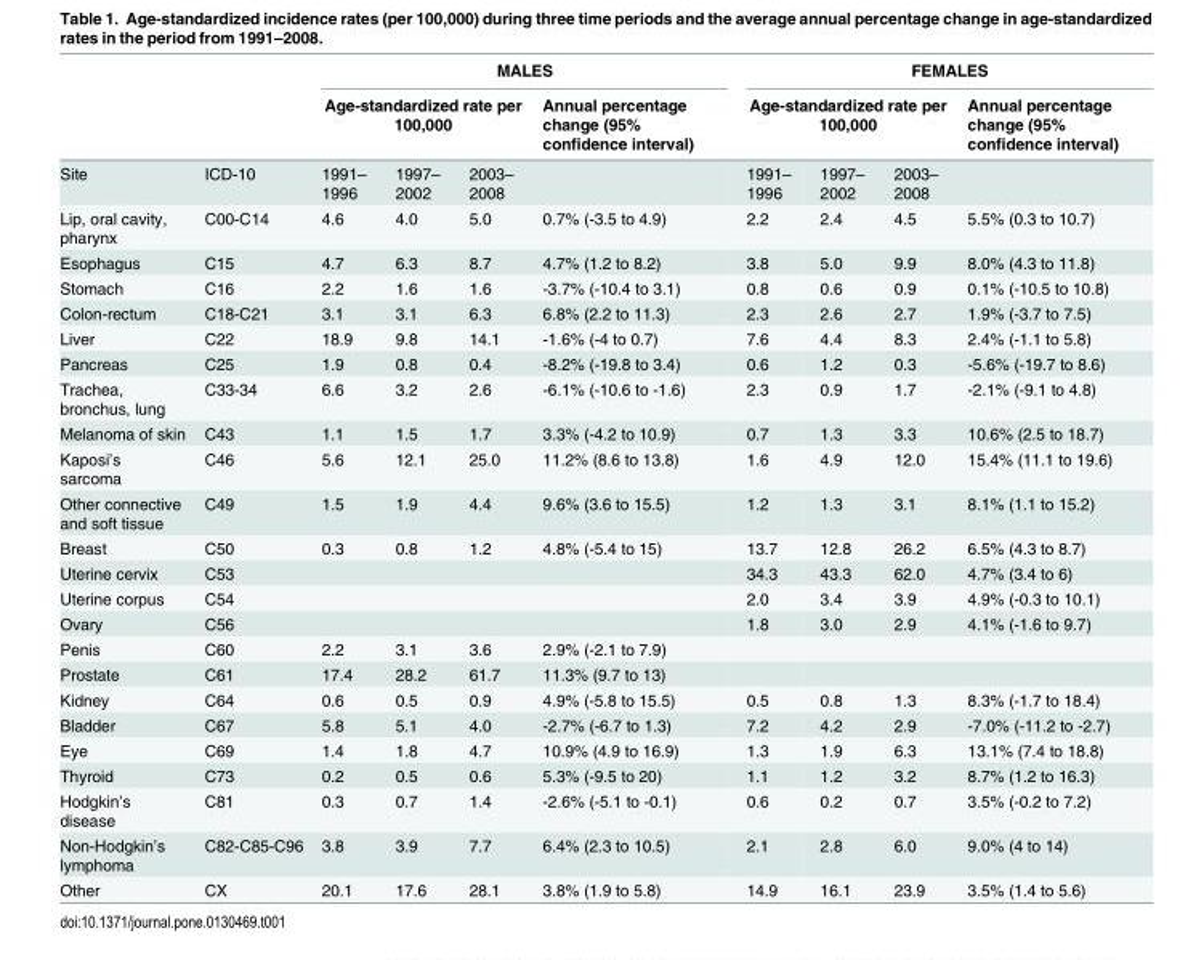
<table><thead><tr><td rowspan="3">Site</td><td rowspan="3">ICD-10</td><td colspan="4">MALES</td><td colspan="4">FEMALES</td></tr><tr><td colspan="3">Age-standardized rate per 100,000</td><td rowspan="2">Annual percentage change (95% confidence interval)</td><td colspan="3">Age-standardized rate per 100,000</td><td rowspan="2">Annual percentage change (95% confidence interval)</td></tr><tr><td>1991– 1996</td><td>1997– 2002</td><td>2003– 2008</td><td>1991– 1996</td><td>1997– 2002</td><td>2003– 2008</td></tr></thead><tbody><tr><td>Lip, oral cavity, pharynx</td><td>C00-C14</td><td>4.6</td><td>4.0</td><td>5.0</td><td>0.7% (-3.5 to 4.9)</td><td>2.2</td><td>2.4</td><td>4.5</td><td>5.5% (0.3 to 10.7)</td></tr><tr><td>Esophagus</td><td>C15</td><td>4.7</td><td>6.3</td><td>8.7</td><td>4.7% (1.2 to 8.2)</td><td>3.8</td><td>5.0</td><td>9.9</td><td>8.0% (4.3 to 11.8)</td></tr><tr><td>Stomach</td><td>C16</td><td>2.2</td><td>1.6</td><td>1.6</td><td>-3.7% (-10.4 to 3.1)</td><td>0.8</td><td>0.6</td><td>0.9</td><td>0.1% (-10.5 to 10.8)</td></tr><tr><td>Colon-rectum</td><td>C18-C21</td><td>3.1</td><td>3.1</td><td>6.3</td><td>6.8% (2.2 to 11.3)</td><td>2.3</td><td>2.6</td><td>2.7</td><td>1.9% (-3.7 to 7.5)</td></tr><tr><td>Liver</td><td>C22</td><td>18.9</td><td>9.8</td><td>14.1</td><td>-1.6% (-4 to 0.7)</td><td>7.6</td><td>4.4</td><td>8.3</td><td>2.4% (-1.1 to 5.8)</td></tr><tr><td>Pancreas</td><td>C25</td><td>1.9</td><td>0.8</td><td>0.4</td><td>-8.2% (-19.8 to 3.4)</td><td>0.6</td><td>1.2</td><td>0.3</td><td>-5.6% (-19.7 to 8.6)</td></tr><tr><td>Trachea, bronchus, lung</td><td>C33-34</td><td>6.6</td><td>3.2</td><td>2.6</td><td>-6.1% (-10.6 to -1.6)</td><td>2.3</td><td>0.9</td><td>1.7</td><td>-2.1% (-9.1 to 4.8)</td></tr><tr><td>Melanoma of skin</td><td>C43</td><td>1.1</td><td>1.5</td><td>1.7</td><td>3.3% (-4.2 to 10.9)</td><td>0.7</td><td>1.3</td><td>3.3</td><td>10.6% (2.5 to 18.7)</td></tr><tr><td>Kaposi’s sarcoma</td><td>C46</td><td>5.6</td><td>12.1</td><td>25.0</td><td>11.2% (8.6 to 13.8)</td><td>1.6</td><td>4.9</td><td>12.0</td><td>15.4% (11.1 to 19.6)</td></tr><tr><td>Other connective and soft tissue</td><td>C49</td><td>1.5</td><td>1.9</td><td>4.4</td><td>9.6% (3.6 to 15.5)</td><td>1.2</td><td>1.3</td><td>3.1</td><td>8.1% (1.1 to 15.2)</td></tr><tr><td>Breast</td><td>C50</td><td>0.3</td><td>0.8</td><td>1.2</td><td>4.8% (-5.4 to 15)</td><td>13.7</td><td>12.8</td><td>26.2</td><td>6.5% (4.3 to 8.7)</td></tr><tr><td>Uterine cervix</td><td>C53</td><td></td><td></td><td></td><td></td><td>34.3</td><td>43.3</td><td>62.0</td><td>4.7% (3.4 to 6)</td></tr><tr><td>Uterine corpus</td><td>C54</td><td></td><td></td><td></td><td></td><td>2.0</td><td>3.4</td><td>3.9</td><td>4.9% (-0.3 to 10.1)</td></tr><tr><td>Ovary</td><td>C56</td><td></td><td></td><td></td><td></td><td>1.8</td><td>3.0</td><td>2.9</td><td>4.1% (-1.6 to 9.7)</td></tr><tr><td>Penis</td><td>C60</td><td>2.2</td><td>3.1</td><td>3.6</td><td>2.9% (-2.1 to 7.9)</td><td></td><td></td><td></td><td></td></tr><tr><td>Prostate</td><td>C61</td><td>17.4</td><td>28.2</td><td>61.7</td><td>11.3% (9.7 to 13)</td><td></td><td></td><td></td><td></td></tr><tr><td>Kidney</td><td>C64</td><td>0.6</td><td>0.5</td><td>0.9</td><td>4.9% (-5.8 to 15.5)</td><td>0.5</td><td>0.8</td><td>1.3</td><td>8.3% (-1.7 to 18.4)</td></tr><tr><td>Bladder</td><td>C67</td><td>5.8</td><td>5.1</td><td>4.0</td><td>-2.7% (-6.7 to 1.3)</td><td>7.2</td><td>4.2</td><td>2.9</td><td>-7.0% (-11.2 to -2.7)</td></tr><tr><td>Eye</td><td>C69</td><td>1.4</td><td>1.8</td><td>4.7</td><td>10.9% (4.9 to 16.9)</td><td>1.3</td><td>1.9</td><td>6.3</td><td>13.1% (7.4 to 18.8)</td></tr><tr><td>Thyroid</td><td>C73</td><td>0.2</td><td>0.5</td><td>0.6</td><td>5.3% (-9.5 to 20)</td><td>1.1</td><td>1.2</td><td>3.2</td><td>8.7% (1.2 to 16.3)</td></tr><tr><td>Hodgkin’s disease</td><td>C81</td><td>0.3</td><td>0.7</td><td>1.4</td><td>-2.6% (-5.1 to -0.1)</td><td>0.6</td><td>0.2</td><td>0.7</td><td>3.5% (-0.2 to 7.2)</td></tr><tr><td>Non-Hodgkin’s lymphoma</td><td>C82-C85-C96</td><td>3.8</td><td>3.9</td><td>7.7</td><td>6.4% (2.3 to 10.5)</td><td>2.1</td><td>2.8</td><td>6.0</td><td>9.0% (4 to 14)</td></tr><tr><td>Other</td><td>CX</td><td>20.1</td><td>17.6</td><td>28.1</td><td>3.8% (1.9 to 5.8)</td><td>14.9</td><td>16.1</td><td>23.9</td><td>3.5% (1.4 to 5.6)</td></tr></tbody></table>